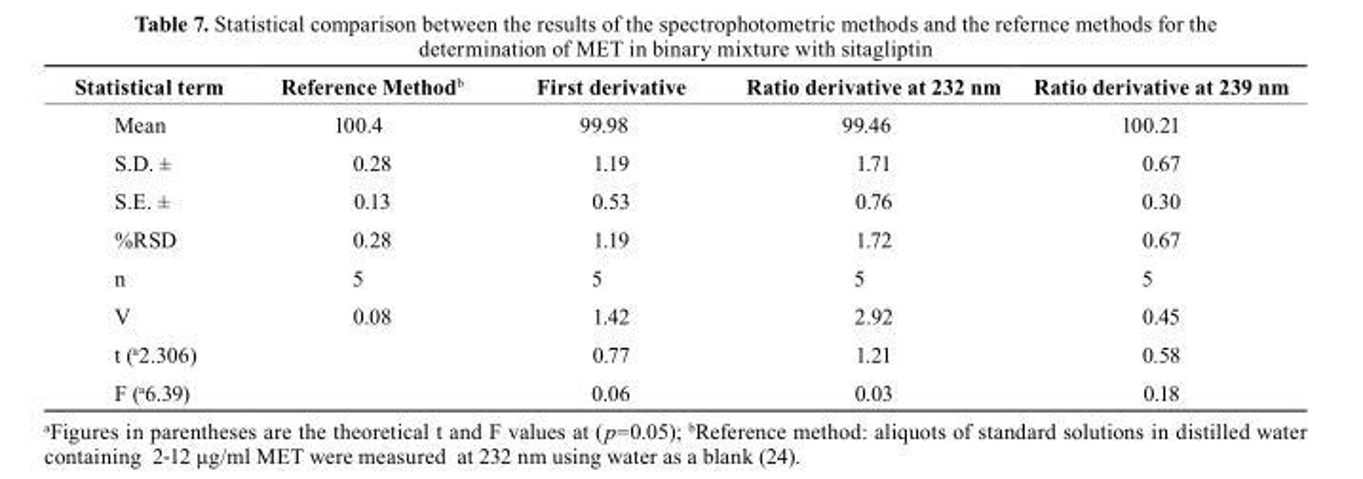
<table><thead><tr><td>statistical term</td><td>Reference Method<sup>b</sup></td><td>First derivative</td><td>Ratio derivative at 232 nm</td><td>Ratio derivative at 239 nm</td></tr></thead><tbody><tr><td>Mean</td><td>100.4</td><td>99.98</td><td>99.46</td><td>100.21</td></tr><tr><td>S.D. ±</td><td>0.28</td><td>1.19</td><td>1.71</td><td>0.67</td></tr><tr><td>S.E. ±</td><td>0.13</td><td>0.53</td><td>0.76</td><td>0.30</td></tr><tr><td>%RSD</td><td>0.28</td><td>1.19</td><td>1.72</td><td>0.67</td></tr><tr><td>n</td><td>5</td><td>5</td><td>5</td><td>5</td></tr><tr><td>V</td><td>0.08</td><td>1.42</td><td>2.92</td><td>0.45</td></tr><tr><td>t (a2.306)</td><td></td><td>0.77</td><td>1.21</td><td>0.58</td></tr><tr><td>F (a6.39)</td><td></td><td>0.06</td><td>0.03</td><td>0.18</td></tr></tbody></table>